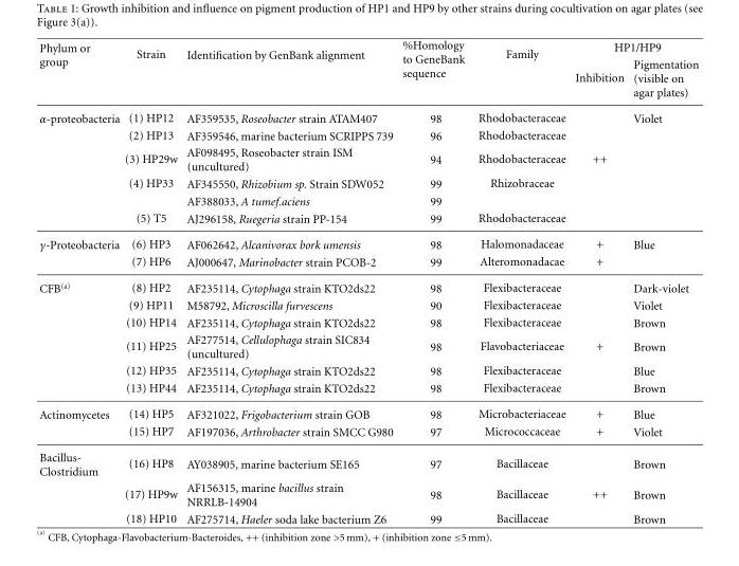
<table><thead><tr><td rowspan="2">Phylum or group</td><td rowspan="2">Strain</td><td rowspan="2">Identification by GenBank alignment</td><td rowspan="2">%Homology to GeneBank sequence</td><td rowspan="2">Family</td><td colspan="2">HP1/HP9</td></tr><tr><td>Inhibition</td><td>Pigmentation (visible on agar plates)</td></tr></thead><tbody><tr><td rowspan="6">α-proteobacteria</td><td>(1) HP12</td><td>AF359535, Roseobacter strain ATAM407</td><td>98</td><td>Rhodobacteraceae</td><td></td><td>Violet</td></tr><tr><td>(2) HP13</td><td>AF359546, marine bacterium SCRIPPS 739</td><td>96</td><td>Rhodobacteraceae</td><td></td><td></td></tr><tr><td>(3) HP29w</td><td>AF098495, Roseobacter strain ISM (uncultured)</td><td>94</td><td>Rhodobacteraceae</td><td>++</td><td></td></tr><tr><td>(4) HP33</td><td>AF345550, Rhizobium sp. Strain SDW052</td><td>99</td><td>Rhizobraceae</td><td></td><td></td></tr><tr><td></td><td>AF388033, A tumef.aciens</td><td>99</td><td></td><td></td><td></td></tr><tr><td>(5) T5</td><td>AJ296158, Ruegeria strain PP-154</td><td>99</td><td>Rhodobacteraceae</td><td></td><td></td></tr><tr><td rowspan="2">γ-Proteobacteria</td><td>(6) HP3</td><td>AF062642, Alcanivorax bork umensis</td><td>98</td><td>Halomonadaceae</td><td>+</td><td>Blue</td></tr><tr><td>(7) HP6</td><td>AJ000647, Marinobacter strain PCOB-2</td><td>99</td><td>Alteromonadacae</td><td>+</td><td></td></tr><tr><td rowspan="6">CFB<sup>(a)</sup></td><td>(8) HP2</td><td>AF235114, Cytophaga strain KTO2ds22</td><td>98</td><td>Flexibacteraceae</td><td></td><td>Dark-violet</td></tr><tr><td>(9) HP11</td><td>M58792, Microscilla furvescens</td><td>90</td><td>Flexibacteraceae</td><td></td><td>Violet</td></tr><tr><td>(10) HP14</td><td>AF235114, Cytophaga strain KTO2ds22</td><td>98</td><td>Flexibacteraceae</td><td></td><td>Brown</td></tr><tr><td>(11) HP25</td><td>AF277514, Cellulophaga strain SIC834 (uncultured)</td><td>98</td><td>Flavobacteriaceae</td><td>+</td><td>Brown</td></tr><tr><td>(12) HP35</td><td>AF235114, Cytophaga strain KTO2ds22</td><td>98</td><td>Flexibacteraceae</td><td></td><td>Blue</td></tr><tr><td>(13) HP44</td><td>AF235114, Cytophaga strain KTO2ds22</td><td>98</td><td>Flexibacteraceae</td><td></td><td>Brown</td></tr><tr><td rowspan="2">Actinomycetes</td><td>(14) HP5</td><td>AF321022, Frigobacterium strain GOB</td><td>98</td><td>Microbacteriaceae</td><td>+</td><td>Blue</td></tr><tr><td>(15) HP7</td><td>AF197036, Arthrobacter strain SMCC G980</td><td>97</td><td>Micrococcaceae</td><td>+</td><td>Violet</td></tr><tr><td rowspan="3">Bacillus- Clostridium</td><td>(16) HP8</td><td>AY038905, marine bacterium SE165</td><td>97</td><td>Bacillaceae</td><td></td><td>Brown</td></tr><tr><td>(17) HP9w</td><td>AF156315, marine bacillus strain NRRLB-14904</td><td>98</td><td>Bacillaceae</td><td>++</td><td>Brown</td></tr><tr><td>(18) HP10</td><td>AF275714, Haeler soda lake bacterium Z6</td><td>99</td><td>Bacillaceae</td><td></td><td>Brown</td></tr></tbody></table>